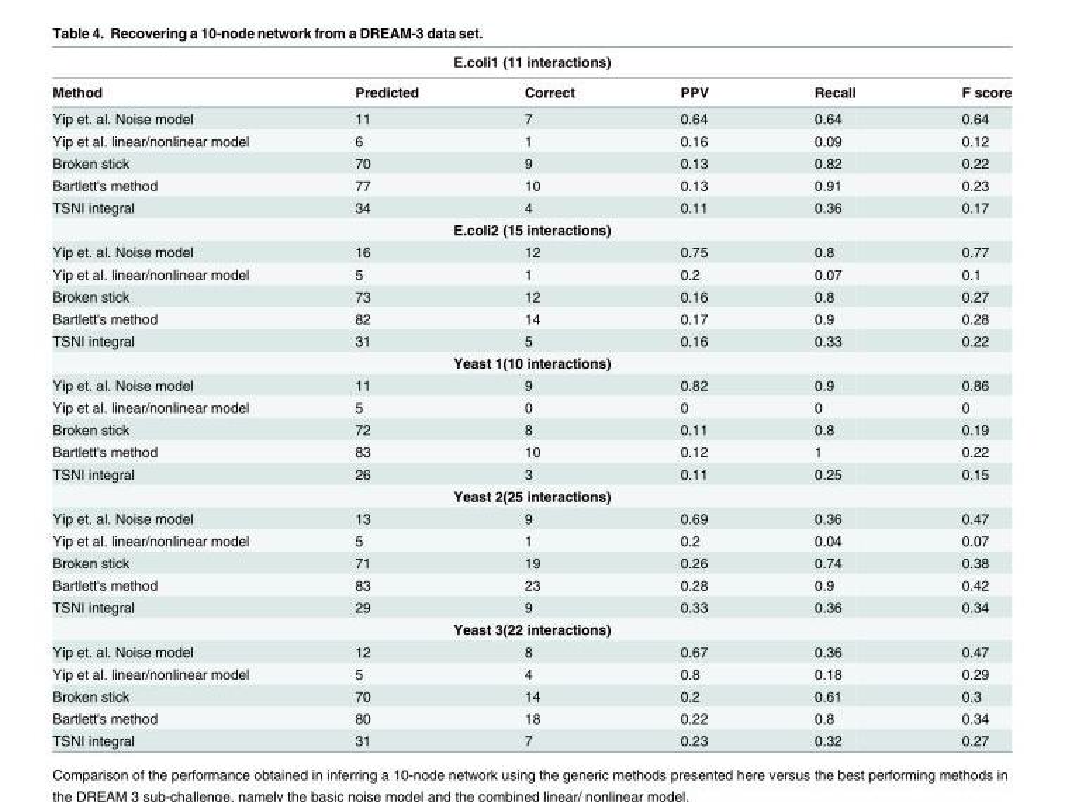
<table><thead><tr><td colspan="6">E.coli1 (11 interactions)</td></tr><tr><td>Method</td><td>Predicted</td><td>Correct</td><td>PPV</td><td>Recall</td><td>F score</td></tr></thead><tbody><tr><td>Yip et. al. Noise model</td><td>11</td><td>7</td><td>0.64</td><td>0.64</td><td>0.64</td></tr><tr><td>Yip et al. linear/nonlinear model</td><td>6</td><td>1</td><td>0.16</td><td>0.09</td><td>0.12</td></tr><tr><td>Broken stick</td><td>70</td><td>9</td><td>0.13</td><td>0.82</td><td>0.22</td></tr><tr><td>Bartlett&#x27;s method</td><td>77</td><td>10</td><td>0.13</td><td>0.91</td><td>0.23</td></tr><tr><td>TSNI integral</td><td>34</td><td>4</td><td>0.11</td><td>0.36</td><td>0.17</td></tr><tr><td colspan="6">E.coli2 (15 interactions)</td></tr><tr><td>Yip et. al. Noise model</td><td>16</td><td>12</td><td>0.75</td><td>0.8</td><td>0.77</td></tr><tr><td>Yip et al. linear/nonlinear model</td><td>5</td><td>1</td><td>0.2</td><td>0.07</td><td>0.1</td></tr><tr><td>Broken stick</td><td>73</td><td>12</td><td>0.16</td><td>0.8</td><td>0.27</td></tr><tr><td>Bartlett&#x27;s method</td><td>82</td><td>14</td><td>0.17</td><td>0.9</td><td>0.28</td></tr><tr><td>TSNI integral</td><td>31</td><td>5</td><td>0.16</td><td>0.33</td><td>0.22</td></tr><tr><td colspan="6">Yeast 1(10 interactions)</td></tr><tr><td>Yip et. al. Noise model</td><td>11</td><td>9</td><td>0.82</td><td>0.9</td><td>0.86</td></tr><tr><td>Yip et al. linear/nonlinear model</td><td>5</td><td>0</td><td>0</td><td>0</td><td>0</td></tr><tr><td>Broken stick</td><td>72</td><td>8</td><td>0.11</td><td>0.8</td><td>0.19</td></tr><tr><td>Bartlett&#x27;s method</td><td>83</td><td>10</td><td>0.12</td><td>1</td><td>0.22</td></tr><tr><td>TSNI integral</td><td>26</td><td>3</td><td>0.11</td><td>0.25</td><td>0.15</td></tr><tr><td colspan="6">Yeast 2(25 interactions)</td></tr><tr><td>Yip et. al. Noise model</td><td>13</td><td>9</td><td>0.69</td><td>0.36</td><td>0.47</td></tr><tr><td>Yip et al. linear/nonlinear model</td><td>5</td><td>1</td><td>0.2</td><td>0.04</td><td>0.07</td></tr><tr><td>Broken stick</td><td>71</td><td>19</td><td>0.26</td><td>0.74</td><td>0.38</td></tr><tr><td>Bartlett&#x27;s method</td><td>83</td><td>23</td><td>0.28</td><td>0.9</td><td>0.42</td></tr><tr><td>TSNI integral</td><td>29</td><td>9</td><td>0.33</td><td>0.36</td><td>0.34</td></tr><tr><td colspan="6">Yeast 3(22 interactions)</td></tr><tr><td>Yip et. al. Noise model</td><td>12</td><td>8</td><td>0.67</td><td>0.36</td><td>0.47</td></tr><tr><td>Yip et al. linear/nonlinear model</td><td>5</td><td>4</td><td>0.8</td><td>0.18</td><td>0.29</td></tr><tr><td>Broken stick</td><td>70</td><td>14</td><td>0.2</td><td>0.61</td><td>0.3</td></tr><tr><td>Bartlett&#x27;s method</td><td>80</td><td>18</td><td>0.22</td><td>0.8</td><td>0.34</td></tr><tr><td>TSNI integral</td><td>31</td><td>7</td><td>0.23</td><td>0.32</td><td>0.27</td></tr></tbody></table>